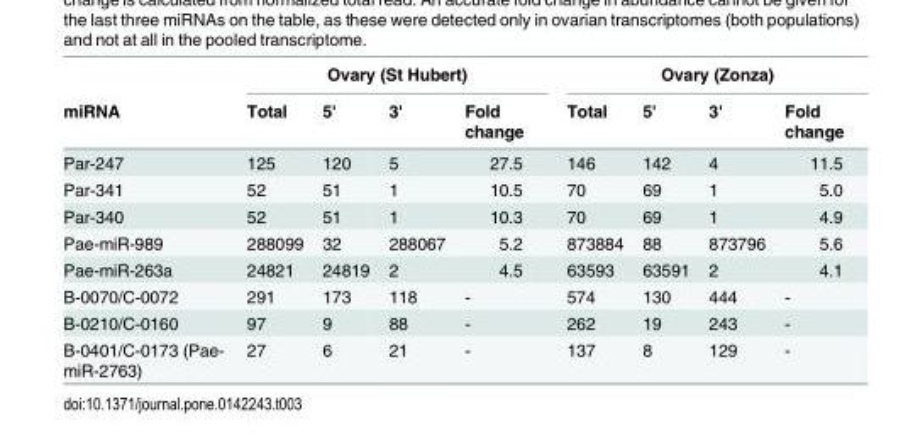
<table><thead><tr><td rowspan="2">miRNA</td><td colspan="4">Ovary (St Hubert)</td><td colspan="4">Ovary (Zonza)</td></tr><tr><td>Total</td><td>5&#x27;</td><td>3&#x27;</td><td>Fold change</td><td>Total</td><td>5&#x27;</td><td>3&#x27;</td><td>Fold change</td></tr></thead><tbody><tr><td>Par-247</td><td>125</td><td>120</td><td>5</td><td>27.5</td><td>146</td><td>142</td><td>4</td><td>11.5</td></tr><tr><td>Par-341</td><td>52</td><td>51</td><td>1</td><td>10.5</td><td>70</td><td>69</td><td>1</td><td>5.0</td></tr><tr><td>Par-340</td><td>52</td><td>51</td><td>1</td><td>10.3</td><td>70</td><td>69</td><td>1</td><td>4.9</td></tr><tr><td>Pae-miR-989</td><td>288099</td><td>32</td><td>288067</td><td>5.2</td><td>873884</td><td>88</td><td>873796</td><td>5.6</td></tr><tr><td>Pae-miR-263a</td><td>24821</td><td>24819</td><td>2</td><td>4.5</td><td>63593</td><td>63591</td><td>2</td><td>4.1</td></tr><tr><td>B-0070/C-0072</td><td>291</td><td>173</td><td>118</td><td>-</td><td>574</td><td>130</td><td>444</td><td>-</td></tr><tr><td>B-0210/C-0160</td><td>97</td><td>9</td><td>88</td><td>-</td><td>262</td><td>19</td><td>243</td><td>-</td></tr><tr><td>B-0401/C-0173 (Pae- miR-2763)</td><td>27</td><td>6</td><td>21</td><td>-</td><td>137</td><td>8</td><td>129</td><td>-</td></tr></tbody></table>